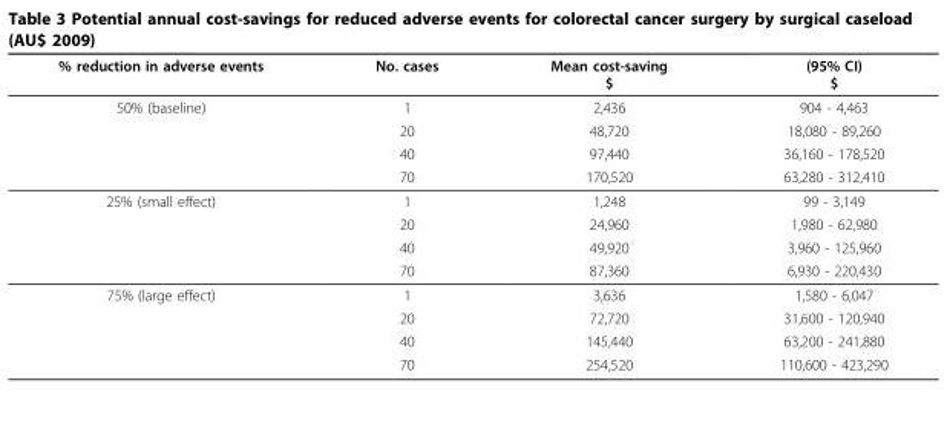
<table><thead><tr><td>% reduction in adverse events</td><td>No. cases</td><td>Mean cost-saving $</td><td>(95% CI) $</td></tr></thead><tbody><tr><td rowspan="4">50% (baseline)</td><td>1</td><td>2,436</td><td>904 - 4,463</td></tr><tr><td>20</td><td>48,720</td><td>18,080 - 89,260</td></tr><tr><td>40</td><td>97,440</td><td>36,160 - 178,520</td></tr><tr><td>70</td><td>170,520</td><td>63,280 - 312,410</td></tr><tr><td rowspan="4">25% (small effect)</td><td>1</td><td>1,248</td><td>99 - 3,149</td></tr><tr><td>20</td><td>24,960</td><td>1,980 - 62,980</td></tr><tr><td>40</td><td>49,920</td><td>3,960 - 125,960</td></tr><tr><td>70</td><td>87,360</td><td>6,930 - 220,430</td></tr><tr><td rowspan="4">75% (large effect)</td><td>1</td><td>3,636</td><td>1,580 - 6,047</td></tr><tr><td>20</td><td>72,720</td><td>31,600 - 120,940</td></tr><tr><td>40</td><td>145,440</td><td>63,200 - 241,880</td></tr><tr><td>70</td><td>254,520</td><td>110,600 - 423,290</td></tr></tbody></table>